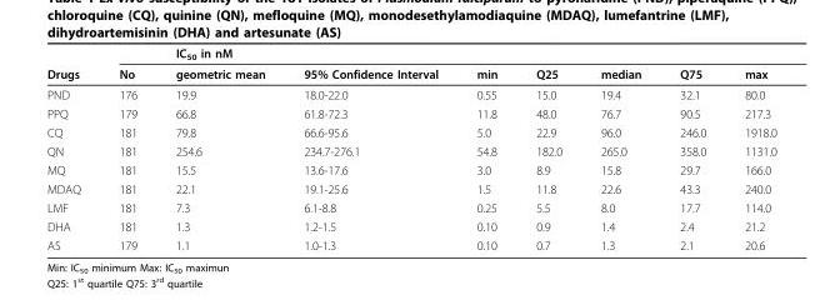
<table><thead><tr><td rowspan="2">Drugs</td><td rowspan="2">No</td><td colspan="7">IC<sub>50</sub> in nM</td></tr><tr><td>geometric mean</td><td>95% Confidence Interval</td><td>min</td><td>Q25</td><td>median</td><td>Q75</td><td>max</td></tr></thead><tbody><tr><td>PND</td><td>176</td><td>19.9</td><td>18.0-22.0</td><td>0.55</td><td>15.0</td><td>19.4</td><td>32.1</td><td>80.0</td></tr><tr><td>PPQ</td><td>179</td><td>66.8</td><td>61.8-72.3</td><td>11.8</td><td>48.0</td><td>76.7</td><td>90.5</td><td>217.3</td></tr><tr><td>CQ</td><td>181</td><td>79.8</td><td>66.6-95.6</td><td>5.0</td><td>22.9</td><td>96.0</td><td>246.0</td><td>1918.0</td></tr><tr><td>QN</td><td>181</td><td>254.6</td><td>234.7-276.1</td><td>54.8</td><td>182.0</td><td>265.0</td><td>358.0</td><td>1131.0</td></tr><tr><td>MQ</td><td>181</td><td>15.5</td><td>13.6-17.6</td><td>3.0</td><td>8.9</td><td>15.8</td><td>29.7</td><td>166.0</td></tr><tr><td>MDAQ</td><td>181</td><td>22.1</td><td>19.1-25.6</td><td>1.5</td><td>11.8</td><td>22.6</td><td>43.3</td><td>240.0</td></tr><tr><td>LMF</td><td>181</td><td>7.3</td><td>6.1-8.8</td><td>0.25</td><td>5.5</td><td>8.0</td><td>17.7</td><td>114.0</td></tr><tr><td>DHA</td><td>181</td><td>1.3</td><td>1.2-1.5</td><td>0.10</td><td>0.9</td><td>1.4</td><td>2.4</td><td>21.2</td></tr><tr><td>AS</td><td>179</td><td>1.1</td><td>1.0-1.3</td><td>0.10</td><td>0.7</td><td>1.3</td><td>2.1</td><td>20.6</td></tr></tbody></table>